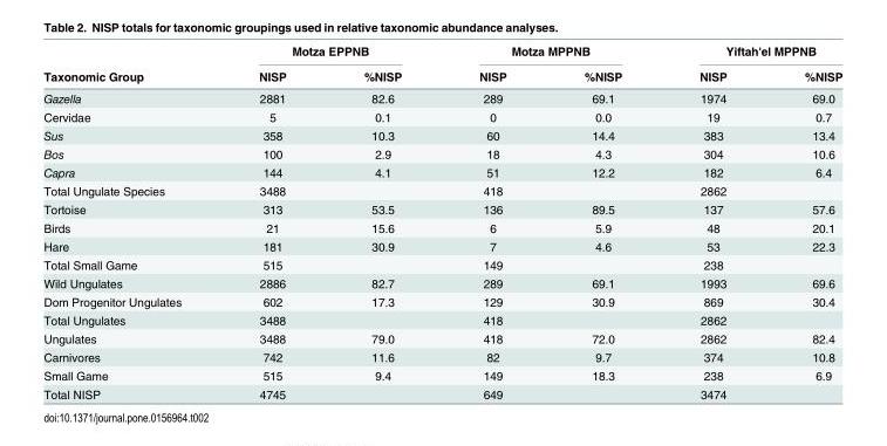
<table><thead><tr><td rowspan="2">Taxonomic Group</td><td colspan="2">Motza EPPNB</td><td colspan="2">Motza MPPNB</td><td colspan="2">Yiftah&#x27;el MPPNB</td></tr><tr><td>NISP</td><td>%NISP</td><td>NISP</td><td>%NISP</td><td>NISP</td><td>%NISP</td></tr></thead><tbody><tr><td>Gazella</td><td>2881</td><td>82.6</td><td>289</td><td>69.1</td><td>1974</td><td>69.0</td></tr><tr><td>Cervidae</td><td>5</td><td>0.1</td><td>0</td><td>0.0</td><td>19</td><td>0.7</td></tr><tr><td>Sus</td><td>358</td><td>10.3</td><td>60</td><td>14.4</td><td>383</td><td>13.4</td></tr><tr><td>Bos</td><td>100</td><td>2.9</td><td>18</td><td>4.3</td><td>304</td><td>10.6</td></tr><tr><td>Capra</td><td>144</td><td>4.1</td><td>51</td><td>12.2</td><td>182</td><td>6.4</td></tr><tr><td>Total Ungulate Species</td><td>3488</td><td></td><td>418</td><td></td><td>2862</td><td></td></tr><tr><td>Tortoise</td><td>313</td><td>53.5</td><td>136</td><td>89.5</td><td>137</td><td>57.6</td></tr><tr><td>Birds</td><td>21</td><td>15.6</td><td>6</td><td>5.9</td><td>48</td><td>20.1</td></tr><tr><td>Hare</td><td>181</td><td>30.9</td><td>7</td><td>4.6</td><td>53</td><td>22.3</td></tr><tr><td>Total Small Game</td><td>515</td><td></td><td>149</td><td></td><td>238</td><td></td></tr><tr><td>Wild Ungulates</td><td>2886</td><td>82.7</td><td>289</td><td>69.1</td><td>1993</td><td>69.6</td></tr><tr><td>Dom Progenitor Ungulates</td><td>602</td><td>17.3</td><td>129</td><td>30.9</td><td>869</td><td>30.4</td></tr><tr><td>Total Ungulates</td><td>3488</td><td></td><td>418</td><td></td><td>2862</td><td></td></tr><tr><td>Ungulates</td><td>3488</td><td>79.0</td><td>418</td><td>72.0</td><td>2862</td><td>82.4</td></tr><tr><td>Carnivores</td><td>742</td><td>11.6</td><td>82</td><td>9.7</td><td>374</td><td>10.8</td></tr><tr><td>Small Game</td><td>515</td><td>9.4</td><td>149</td><td>18.3</td><td>238</td><td>6.9</td></tr><tr><td>Total NISP</td><td>4745</td><td></td><td>649</td><td></td><td>3474</td><td></td></tr></tbody></table>